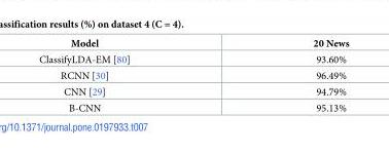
<table><thead><tr><td>Model</td><td>20 News</td></tr></thead><tbody><tr><td>ClassifyLDA-EM [80]</td><td>93.60%</td></tr><tr><td>RCNN [30]</td><td>96.49%</td></tr><tr><td>CNN [29]</td><td>94.79%</td></tr><tr><td>B-CNN</td><td>95.13%</td></tr></tbody></table>